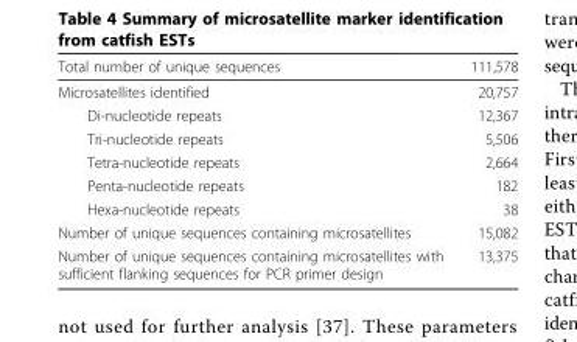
<table><tbody><tr><td>Total number of unique sequences</td><td>111,578</td></tr><tr><td>Microsatellites identified</td><td>20,757</td></tr><tr><td>Di-nucleotide repeats</td><td>12,367</td></tr><tr><td>Tri-nucleotide repeats</td><td>5,506</td></tr><tr><td>Tetra-nucleotide repeats</td><td>2,664</td></tr><tr><td>Penta-nucleotide repeats</td><td>182</td></tr><tr><td>Hexa-nucleotide repeats</td><td>38</td></tr><tr><td>Number of unique sequences containing microsatellites</td><td>15,082</td></tr><tr><td>Number of unique sequences containing microsatellites with sufficient flanking sequences for PCR primer design</td><td>13,375</td></tr></tbody></table>